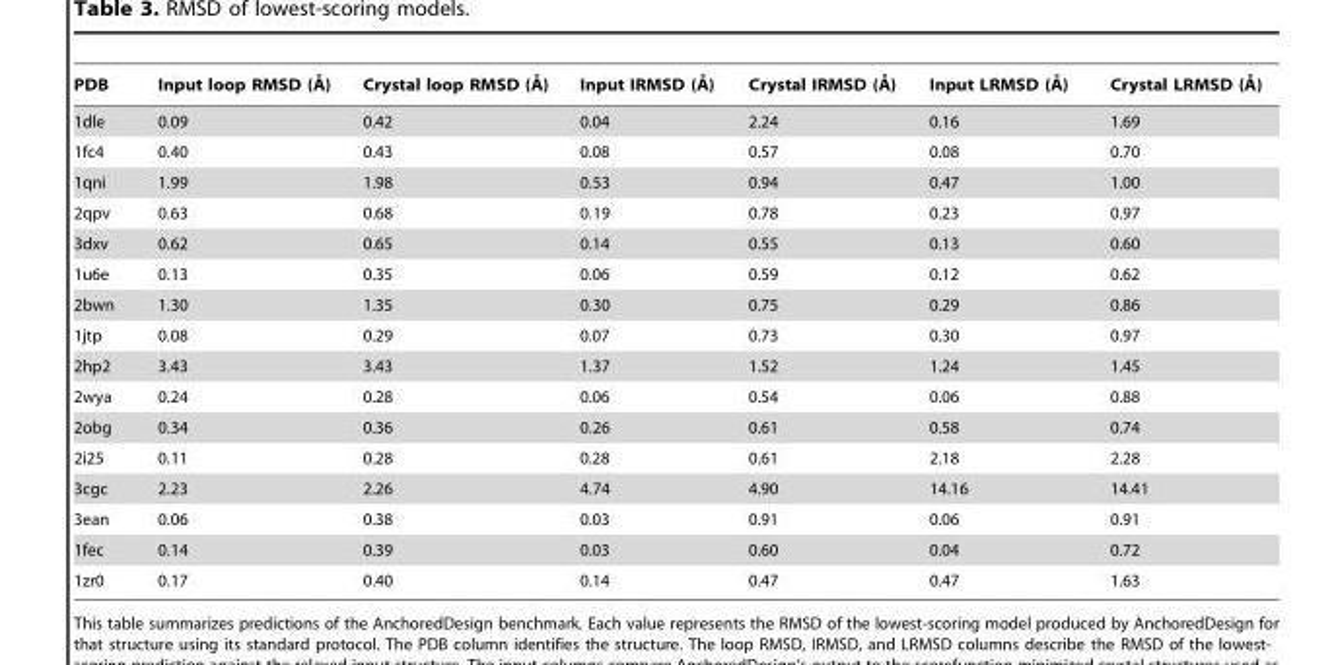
<table><thead><tr><td>PDB</td><td>Input loop RMSD (A˚)</td><td>Crystal loop RMSD (A˚ )</td><td>Input IRMSD (A˚ )</td><td>Crystal IRMSD (A˚ )</td><td>Input LRMSD (A˚ )</td><td>Crystal LRMSD (A˚ )</td></tr></thead><tbody><tr><td>1dle</td><td>0.09</td><td>0.42</td><td>0.04</td><td>2.24</td><td>0.16</td><td>1.69</td></tr><tr><td>1fc4</td><td>0.40</td><td>0.43</td><td>0.08</td><td>0.57</td><td>0.08</td><td>0.70</td></tr><tr><td>1qni</td><td>1.99</td><td>1.98</td><td>0.53</td><td>0.94</td><td>0.47</td><td>1.00</td></tr><tr><td>2qpv</td><td>0.63</td><td>0.68</td><td>0.19</td><td>0.78</td><td>0.23</td><td>0.97</td></tr><tr><td>3dxv</td><td>0.62</td><td>0.65</td><td>0.14</td><td>0.55</td><td>0.13</td><td>0.60</td></tr><tr><td>1u6e</td><td>0.13</td><td>0.35</td><td>0.06</td><td>0.59</td><td>0.12</td><td>0.62</td></tr><tr><td>2bwn</td><td>1.30</td><td>1.35</td><td>0.30</td><td>0.75</td><td>0.29</td><td>0.86</td></tr><tr><td>1jtp</td><td>0.08</td><td>0.29</td><td>0.07</td><td>0.73</td><td>0.30</td><td>0.97</td></tr><tr><td>2hp2</td><td>3.43</td><td>3.43</td><td>1.37</td><td>1.52</td><td>1.24</td><td>1.45</td></tr><tr><td>2wya</td><td>0.24</td><td>0.28</td><td>0.06</td><td>0.54</td><td>0.06</td><td>0.88</td></tr><tr><td>2obg</td><td>0.34</td><td>0.36</td><td>0.26</td><td>0.61</td><td>0.58</td><td>0.74</td></tr><tr><td>2i25</td><td>0.11</td><td>0.28</td><td>0.28</td><td>0.61</td><td>2.18</td><td>2.28</td></tr><tr><td>3cgc</td><td>2.23</td><td>2.26</td><td>4.74</td><td>4.90</td><td>14.16</td><td>14.41</td></tr><tr><td>3ean</td><td>0.06</td><td>0.38</td><td>0.03</td><td>0.91</td><td>0.06</td><td>0.91</td></tr><tr><td>1fec</td><td>0.14</td><td>0.39</td><td>0.03</td><td>0.60</td><td>0.04</td><td>0.72</td></tr><tr><td>1zr0</td><td>0.17</td><td>0.40</td><td>0.14</td><td>0.47</td><td>0.47</td><td>1.63</td></tr></tbody></table>